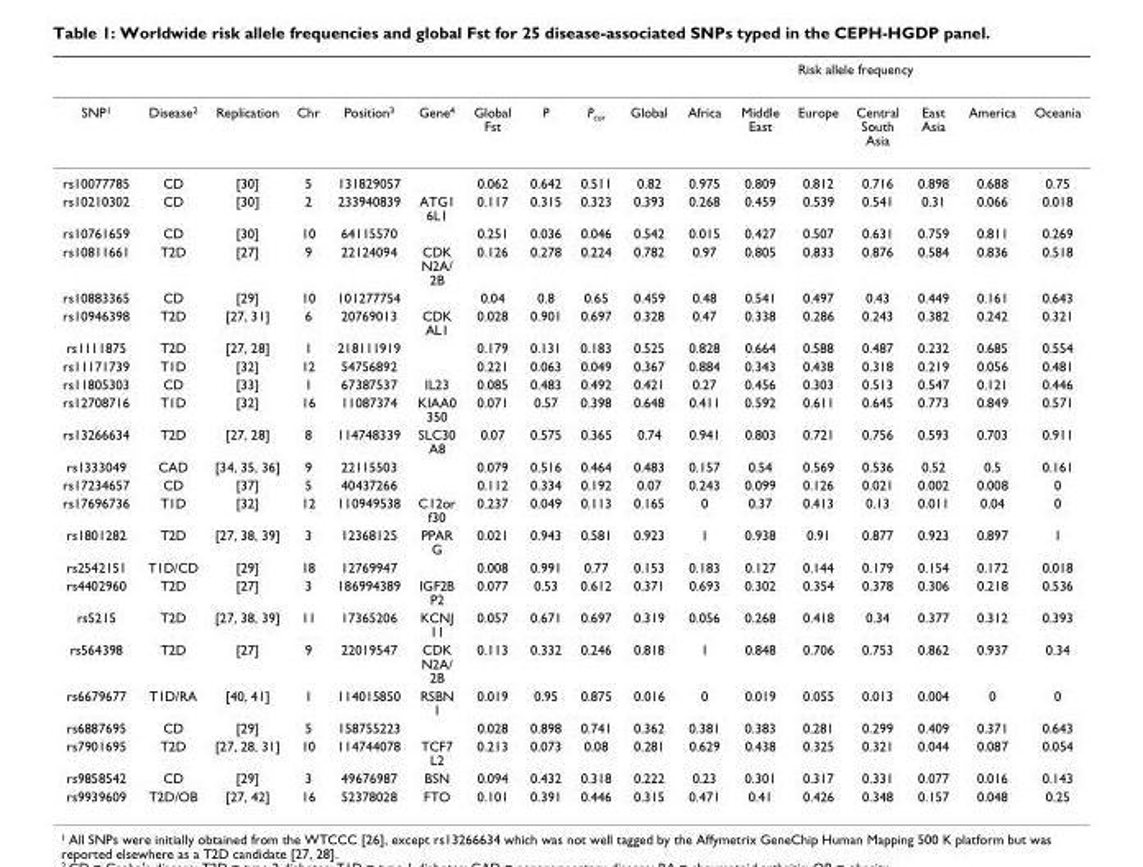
<table><thead><tr><td rowspan="2">SNP<sup>1</sup></td><td rowspan="2">Disease<sup>2</sup></td><td rowspan="2">Replication</td><td rowspan="2">Chr</td><td rowspan="2">Position<sup>3</sup></td><td rowspan="2">Gene<sup>4</sup></td><td rowspan="2">Global Fst</td><td rowspan="2">P</td><td rowspan="2">P<sub>cor</sub></td><td colspan="8">Risk allele frequency</td></tr><tr><td>Global</td><td>Africa</td><td>Middle East</td><td>Europe</td><td>Central South Asia</td><td>East Asia</td><td>America</td><td>Oceania</td></tr></thead><tbody><tr><td>rs10077785</td><td>CD</td><td>[30]</td><td>5</td><td>131829057</td><td></td><td>0.062</td><td>0.642</td><td>0.511</td><td>0.82</td><td>0.975</td><td>0.809</td><td>0.812</td><td>0.716</td><td>0.898</td><td>0.688</td><td>0.75</td></tr><tr><td>rs10210302</td><td>CD</td><td>[30]</td><td>2</td><td>233940839</td><td>ATG1 6L1</td><td>0.117</td><td>0.315</td><td>0.323</td><td>0.393</td><td>0.268</td><td>0.459</td><td>0.539</td><td>0.541</td><td>0.31</td><td>0.066</td><td>0.018</td></tr><tr><td>rs10761659</td><td>CD</td><td>[30]</td><td>10</td><td>64115570</td><td></td><td>0.251</td><td>0.036</td><td>0.046</td><td>0.542</td><td>0.015</td><td>0.427</td><td>0.507</td><td>0.631</td><td>0.759</td><td>0.811</td><td>0.269</td></tr><tr><td>rs10811661</td><td>T2D</td><td>[27]</td><td>9</td><td>22124094</td><td>CDK N2A/ 2B</td><td>0.126</td><td>0.278</td><td>0.224</td><td>0.782</td><td>0.97</td><td>0.805</td><td>0.833</td><td>0.876</td><td>0.584</td><td>0.836</td><td>0.518</td></tr><tr><td>rs10883365</td><td>CD</td><td>[29]</td><td>10</td><td>101277754</td><td></td><td>0.04</td><td>0.8</td><td>0.65</td><td>0.459</td><td>0.48</td><td>0.541</td><td>0.497</td><td>0.43</td><td>0.449</td><td>0.161</td><td>0.643</td></tr><tr><td>rs10946398</td><td>T2D</td><td>[27, 31]</td><td>6</td><td>20769013</td><td>CDK AL1</td><td>0.028</td><td>0.901</td><td>0.697</td><td>0.328</td><td>0.47</td><td>0.338</td><td>0.286</td><td>0.243</td><td>0.382</td><td>0.242</td><td>0.321</td></tr><tr><td>rs1111875</td><td>T2D</td><td>[27, 28]</td><td>1</td><td>218111919</td><td></td><td>0.179</td><td>0.131</td><td>0.183</td><td>0.525</td><td>0.828</td><td>0.664</td><td>0.588</td><td>0.487</td><td>0.232</td><td>0.685</td><td>0.554</td></tr><tr><td>rs11171739</td><td>T1D</td><td>[32]</td><td>12</td><td>54756892</td><td></td><td>0.221</td><td>0.063</td><td>0.049</td><td>0.367</td><td>0.884</td><td>0.343</td><td>0.438</td><td>0.318</td><td>0.219</td><td>0.056</td><td>0.481</td></tr><tr><td>rs11805303</td><td>CD</td><td>[33]</td><td>1</td><td>67387537</td><td>IL23</td><td>0.085</td><td>0.483</td><td>0.492</td><td>0.421</td><td>0.27</td><td>0.456</td><td>0.303</td><td>0.513</td><td>0.547</td><td>0.121</td><td>0.446</td></tr><tr><td>rs12708716</td><td>T1D</td><td>[32]</td><td>16</td><td>11087374</td><td>KIAA0 350</td><td>0.071</td><td>0.57</td><td>0.398</td><td>0.648</td><td>0.411</td><td>0.592</td><td>0.611</td><td>0.645</td><td>0.773</td><td>0.849</td><td>0.571</td></tr><tr><td>rs13266634</td><td>T2D</td><td>[27, 28]</td><td>8</td><td>114748339</td><td>SLC30 A8</td><td>0.07</td><td>0.575</td><td>0.365</td><td>0.74</td><td>0.941</td><td>0.803</td><td>0.721</td><td>0.756</td><td>0.593</td><td>0.703</td><td>0.911</td></tr><tr><td>rs1333049</td><td>CAD</td><td>[34, 35, 36]</td><td>9</td><td>22115503</td><td></td><td>0.079</td><td>0.516</td><td>0.464</td><td>0.483</td><td>0.157</td><td>0.54</td><td>0.569</td><td>0.536</td><td>0.52</td><td>0.5</td><td>0.161</td></tr><tr><td>rs17234657</td><td>CD</td><td>[37]</td><td>5</td><td>40437266</td><td></td><td>0.112</td><td>0.334</td><td>0.192</td><td>0.07</td><td>0.243</td><td>0.099</td><td>0.126</td><td>0.021</td><td>0.002</td><td>0.008</td><td>0</td></tr><tr><td>rs17696736</td><td>T1D</td><td>[32]</td><td>12</td><td>110949538</td><td>C12or f30</td><td>0.237</td><td>0.049</td><td>0.113</td><td>0.165</td><td>0</td><td>0.37</td><td>0.413</td><td>0.13</td><td>0.011</td><td>0.04</td><td>0</td></tr><tr><td>rs1801282</td><td>T2D</td><td>[27, 38, 39]</td><td>3</td><td>12368125</td><td>PPAR G</td><td>0.021</td><td>0.943</td><td>0.581</td><td>0.923</td><td>1</td><td>0.938</td><td>0.91</td><td>0.877</td><td>0.923</td><td>0.897</td><td>1</td></tr><tr><td>rs2542151</td><td>T1D/CD</td><td>[29]</td><td>18</td><td>12769947</td><td></td><td>0.008</td><td>0.991</td><td>0.77</td><td>0.153</td><td>0.183</td><td>0.127</td><td>0.144</td><td>0.179</td><td>0.154</td><td>0.172</td><td>0.018</td></tr><tr><td>rs4402960</td><td>T2D</td><td>[27]</td><td>3</td><td>186994389</td><td>IGF2B P2</td><td>0.077</td><td>0.53</td><td>0.612</td><td>0.371</td><td>0.693</td><td>0.302</td><td>0.354</td><td>0.378</td><td>0.306</td><td>0.218</td><td>0.536</td></tr><tr><td>rs5215</td><td>T2D</td><td>[27, 38, 39]</td><td>11</td><td>17365206</td><td>KCNJ 11</td><td>0.057</td><td>0.671</td><td>0.697</td><td>0.319</td><td>0.056</td><td>0.268</td><td>0.418</td><td>0.34</td><td>0.377</td><td>0.312</td><td>0.393</td></tr><tr><td>rs564398</td><td>T2D</td><td>[27]</td><td>9</td><td>22019547</td><td>CDK N2A/ 2B</td><td>0.113</td><td>0.332</td><td>0.246</td><td>0.818</td><td>1</td><td>0.848</td><td>0.706</td><td>0.753</td><td>0.862</td><td>0.937</td><td>0.34</td></tr><tr><td>rs6679677</td><td>T1D/RA</td><td>[40, 41]</td><td>1</td><td>114015850</td><td>RSBN 1</td><td>0.019</td><td>0.95</td><td>0.875</td><td>0.016</td><td>0</td><td>0.019</td><td>0.055</td><td>0.013</td><td>0.004</td><td>0</td><td>0</td></tr><tr><td>rs6887695</td><td>CD</td><td>[29]</td><td>5</td><td>158755223</td><td></td><td>0.028</td><td>0.898</td><td>0.741</td><td>0.362</td><td>0.381</td><td>0.383</td><td>0.281</td><td>0.299</td><td>0.409</td><td>0.371</td><td>0.643</td></tr><tr><td>rs7901695</td><td>T2D</td><td>[27, 28, 31]</td><td>10</td><td>114744078</td><td>TCF7 L2</td><td>0.213</td><td>0.073</td><td>0.08</td><td>0.281</td><td>0.629</td><td>0.438</td><td>0.325</td><td>0.321</td><td>0.044</td><td>0.087</td><td>0.054</td></tr><tr><td>rs9858542</td><td>CD</td><td>[29]</td><td>3</td><td>49676987</td><td>BSN</td><td>0.094</td><td>0.432</td><td>0.318</td><td>0.222</td><td>0.23</td><td>0.301</td><td>0.317</td><td>0.331</td><td>0.077</td><td>0.016</td><td>0.143</td></tr><tr><td>rs9939609</td><td>T2D/OB</td><td>[27, 42]</td><td>16</td><td>52378028</td><td>FTO</td><td>0.101</td><td>0.391</td><td>0.446</td><td>0.315</td><td>0.471</td><td>0.41</td><td>0.426</td><td>0.348</td><td>0.157</td><td>0.048</td><td>0.25</td></tr></tbody></table>